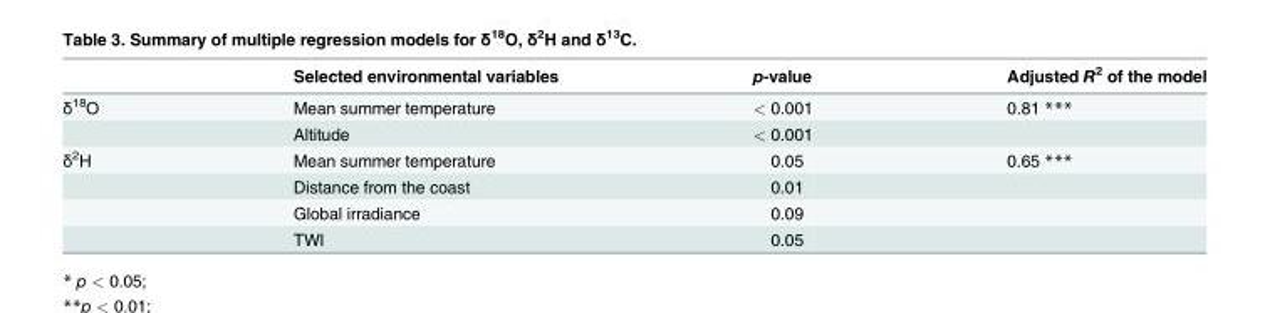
<table><thead><tr><td></td><td>Selected environmental variables</td><td>p-value</td><td>Adjusted R<sup>2</sup> of the model</td></tr></thead><tbody><tr><td rowspan="2">δ<sup>18</sup>O</td><td>Mean summer temperature</td><td>&lt; 0.001</td><td>0.81 ***</td></tr><tr><td>Altitude</td><td>&lt; 0.001</td><td></td></tr><tr><td rowspan="4">δ<sup>2</sup>H</td><td>Mean summer temperature</td><td>0.05</td><td>0.65 ***</td></tr><tr><td>Distance from the coast</td><td>0.01</td><td></td></tr><tr><td>Global irradiance</td><td>0.09</td><td></td></tr><tr><td>TWI</td><td>0.05</td><td></td></tr></tbody></table>